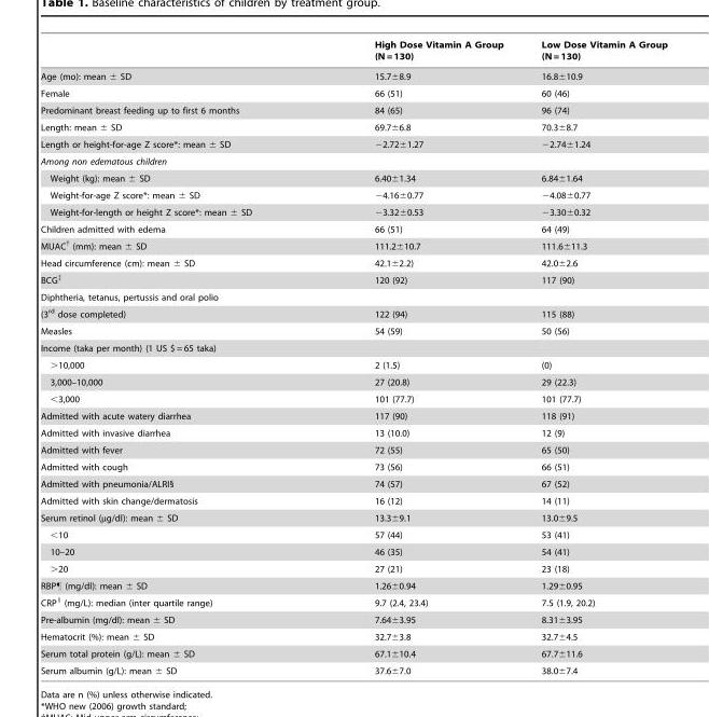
<table><thead><tr><td></td><td>High Dose Vitamin A Group (N = 130)</td><td>Low Dose Vitamin A Group (N = 130)</td></tr></thead><tbody><tr><td>Age (mo): mean ± SD</td><td>15.7±8.9</td><td>16.8±10.9</td></tr><tr><td>Female</td><td>66 (51)</td><td>60 (46)</td></tr><tr><td>Predominant breast feeding up to first 6 months</td><td>84 (65)</td><td>96 (74)</td></tr><tr><td>Length: mean ± SD</td><td>69.7±6.8</td><td>70.3±8.7</td></tr><tr><td>Length or height-for-age Z score*: mean ± SD</td><td>−2.72±1.27</td><td>−2.74±1.24</td></tr><tr><td colspan="3">Among non edematous children</td></tr><tr><td>Weight (kg): mean ± SD</td><td>6.40±1.34</td><td>6.84±1.64</td></tr><tr><td>Weight-for-age Z score*: mean ± SD</td><td>−4.16±0.77</td><td>−4.08±0.77</td></tr><tr><td>Weight-for-length or height Z score*: mean ± SD</td><td>−3.32±0.53</td><td>−3.30±0.32</td></tr><tr><td>Children admitted with edema</td><td>66 (51)</td><td>64 (49)</td></tr><tr><td>MUAC† (mm): mean ± SD</td><td>111.2±10.7</td><td>111.6±11.3</td></tr><tr><td>Head circumference (cm): mean ± SD</td><td>42.1±2.2)</td><td>42.0±2.6</td></tr><tr><td>BCG‡</td><td>120 (92)</td><td>117 (90)</td></tr><tr><td colspan="3">Diphtheria, tetanus, pertussis and oral polio</td></tr><tr><td>(3<sup>rd</sup> dose completed)</td><td>122 (94)</td><td>115 (88)</td></tr><tr><td>Measles</td><td>54 (59)</td><td>50 (56)</td></tr><tr><td colspan="3">Income (taka per month) (1 US $ = 65 taka)</td></tr><tr><td>&gt;10,000</td><td>2 (1.5)</td><td>(0)</td></tr><tr><td>3,000–10,000</td><td>27 (20.8)</td><td>29 (22.3)</td></tr><tr><td>&lt;3,000</td><td>101 (77.7)</td><td>101 (77.7)</td></tr><tr><td>Admitted with acute watery diarrhea</td><td>117 (90)</td><td>118 (91)</td></tr><tr><td>Admitted with invasive diarrhea</td><td>13 (10.0)</td><td>12 (9)</td></tr><tr><td>Admitted with fever</td><td>72 (55)</td><td>65 (50)</td></tr><tr><td>Admitted with cough</td><td>73 (56)</td><td>66 (51)</td></tr><tr><td>Admitted with pneumonia/ALRI§</td><td>74 (57)</td><td>67 (52)</td></tr><tr><td>Admitted with skin change/dermatosis</td><td>16 (12)</td><td>14 (11)</td></tr><tr><td>Serum retinol (µg/dl): mean ± SD</td><td>13.3±9.1</td><td>13.0±9.5</td></tr><tr><td>&lt;10</td><td>57 (44)</td><td>53 (41)</td></tr><tr><td>10–20</td><td>46 (35)</td><td>54 (41)</td></tr><tr><td>&gt;20</td><td>27 (21)</td><td>23 (18)</td></tr><tr><td>RBP¶ (mg/dl): mean ± SD</td><td>1.26±0.94</td><td>1.29±0.95</td></tr><tr><td>CRP∥ (mg/L): median (inter quartile range)</td><td>9.7 (2.4, 23.4)</td><td>7.5 (1.9, 20.2)</td></tr><tr><td>Pre-albumin (mg/dl): mean ± SD</td><td>7.64±3.95</td><td>8.31±3.95</td></tr><tr><td>Hematocrit (%): mean ± SD</td><td>32.7±3.8</td><td>32.7±4.5</td></tr><tr><td>Serum total protein (g/L): mean ± SD</td><td>67.1±10.4</td><td>67.7±11.6</td></tr><tr><td>Serum albumin (g/L): mean ± SD</td><td>37.6±7.0</td><td>38.0±7.4</td></tr></tbody></table>